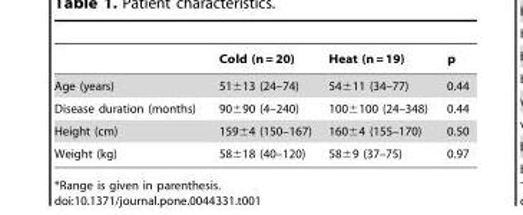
<table><thead><tr><td></td><td>Cold (n = 20)</td><td>Heat (n = 19)</td><td>p</td></tr></thead><tbody><tr><td>Age (years)</td><td>51±13 (24–74)</td><td>54±11 (34–77)</td><td>0.44</td></tr><tr><td>Disease duration (months)</td><td>90±90 (4–240)</td><td>100±100 (24–348)</td><td>0.44</td></tr><tr><td>Height (cm)</td><td>159±4 (150–167)</td><td>160±4 (155–170)</td><td>0.50</td></tr><tr><td>Weight (kg)</td><td>58±18 (40–120)</td><td>58±9 (37–75)</td><td>0.97</td></tr></tbody></table>